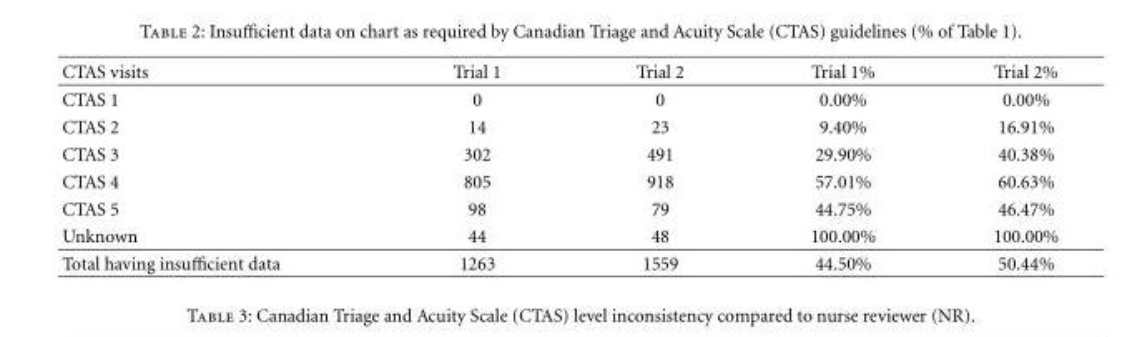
<table><thead><tr><td>CTAS visits</td><td>Trial 1</td><td>Trial 2</td><td>Trial 1%</td><td>Trial 2%</td></tr></thead><tbody><tr><td>CTAS 1</td><td>0</td><td>0</td><td>0.00%</td><td>0.00%</td></tr><tr><td>CTAS 2</td><td>14</td><td>23</td><td>9.40%</td><td>16.91%</td></tr><tr><td>CTAS 3</td><td>302</td><td>491</td><td>29.90%</td><td>40.38%</td></tr><tr><td>CTAS 4</td><td>805</td><td>918</td><td>57.01%</td><td>60.63%</td></tr><tr><td>CTAS 5</td><td>98</td><td>79</td><td>44.75%</td><td>46.47%</td></tr><tr><td>Unknown</td><td>44</td><td>48</td><td>100.00%</td><td>100.00%</td></tr><tr><td>Total having insufficient data</td><td>1263</td><td>1559</td><td>44.50%</td><td>50.44%</td></tr></tbody></table>